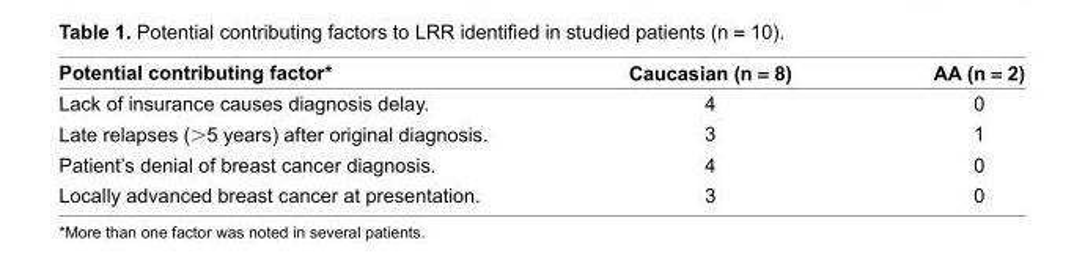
<table><thead><tr><td>Potential contributing factor*</td><td>Caucasian (n = 8)</td><td>AA (n = 2)</td></tr></thead><tbody><tr><td>Lack of insurance causes diagnosis delay.</td><td>4</td><td>0</td></tr><tr><td>Late relapses (&gt;5 years) after original diagnosis.</td><td>3</td><td>1</td></tr><tr><td>Patient’s denial of breast cancer diagnosis.</td><td>4</td><td>0</td></tr><tr><td>Locally advanced breast cancer at presentation.</td><td>3</td><td>0</td></tr></tbody></table>